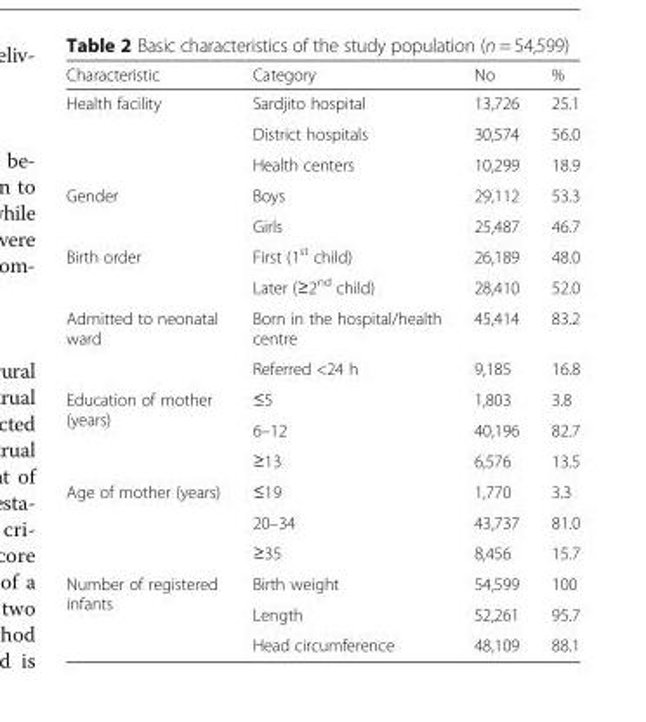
<table><thead><tr><td>Characteristic</td><td>Category</td><td>No</td><td>%</td></tr></thead><tbody><tr><td rowspan="3">Health facility</td><td>Sardjito hospital</td><td>13,726</td><td>25.1</td></tr><tr><td>District hospitals</td><td>30,574</td><td>56.0</td></tr><tr><td>Health centers</td><td>10,299</td><td>18.9</td></tr><tr><td rowspan="2">Gender</td><td>Boys</td><td>29,112</td><td>53.3</td></tr><tr><td>Girls</td><td>25,487</td><td>46.7</td></tr><tr><td rowspan="2">Birth order</td><td>First (1<sup>st</sup> child)</td><td>26,189</td><td>48.0</td></tr><tr><td>Later (≥2<sup>nd</sup> child)</td><td>28,410</td><td>52.0</td></tr><tr><td rowspan="2">Admitted to neonatal ward</td><td>Born in the hospital/health centre</td><td>45,414</td><td>83.2</td></tr><tr><td>Referred &lt;24 h</td><td>9,185</td><td>16.8</td></tr><tr><td rowspan="3">Education of mother (years)</td><td>≤5</td><td>1,803</td><td>3.8</td></tr><tr><td>6–12</td><td>40,196</td><td>82.7</td></tr><tr><td>≥13</td><td>6,576</td><td>13.5</td></tr><tr><td rowspan="3">Age of mother (years)</td><td>≤19</td><td>1,770</td><td>3.3</td></tr><tr><td>20–34</td><td>43,737</td><td>81.0</td></tr><tr><td>≥35</td><td>8,456</td><td>15.7</td></tr><tr><td rowspan="3">Number of registered infants</td><td>Birth weight</td><td>54,599</td><td>100</td></tr><tr><td>Length</td><td>52,261</td><td>95.7</td></tr><tr><td>Head circumference</td><td>48,109</td><td>88.1</td></tr></tbody></table>